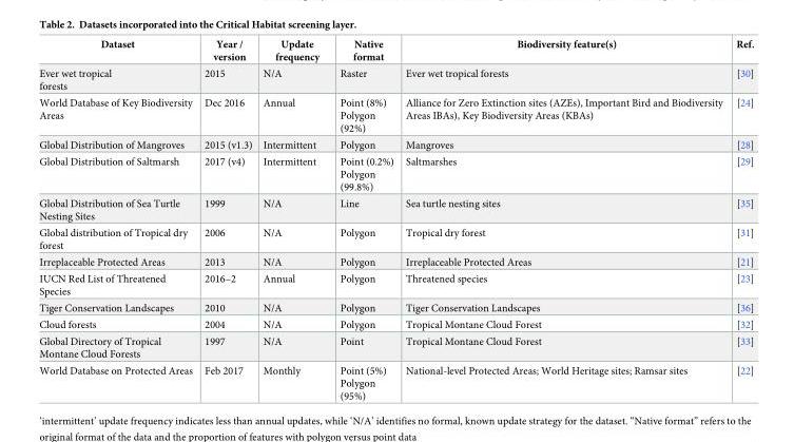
<table><thead><tr><td>Dataset</td><td>Year / version</td><td>Update frequency</td><td>Native format</td><td>Biodiversity feature(s)</td><td>Ref.</td></tr></thead><tbody><tr><td>Ever wet tropical forests</td><td>2015</td><td>N/A</td><td>Raster</td><td>Ever wet tropical forests</td><td>[30]</td></tr><tr><td>World Database of Key Biodiversity Areas</td><td>Dec 2016</td><td>Annual</td><td>Point (8%) Polygon (92%)</td><td>Alliance for Zero Extinction sites (AZEs), Important Bird and Biodiversity Areas IBAs), Key Biodiversity Areas (KBAs)</td><td>[24]</td></tr><tr><td>Global Distribution of Mangroves</td><td>2015 (v1.3)</td><td>Intermittent</td><td>Polygon</td><td>Mangroves</td><td>[28]</td></tr><tr><td>Global Distribution of Saltmarsh</td><td>2017 (v4)</td><td>Intermittent</td><td>Point (0.2%) Polygon (99.8%)</td><td>Saltmarshes</td><td>[29]</td></tr><tr><td>Global Distribution of Sea Turtle Nesting Sites</td><td>1999</td><td>N/A</td><td>Line</td><td>Sea turtle nesting sites</td><td>[35]</td></tr><tr><td>Global distribution of Tropical dry forest</td><td>2006</td><td>N/A</td><td>Polygon</td><td>Tropical dry forest</td><td>[31]</td></tr><tr><td>Irreplaceable Protected Areas</td><td>2013</td><td>N/A</td><td>Polygon</td><td>Irreplaceable Protected Areas</td><td>[21]</td></tr><tr><td>IUCN Red List of Threatened Species</td><td>2016–2</td><td>Annual</td><td>Polygon</td><td>Threatened species</td><td>[23]</td></tr><tr><td>Tiger Conservation Landscapes</td><td>2010</td><td>N/A</td><td>Polygon</td><td>Tiger Conservation Landscapes</td><td>[36]</td></tr><tr><td>Cloud forests</td><td>2004</td><td>N/A</td><td>Polygon</td><td>Tropical Montane Cloud Forest</td><td>[32]</td></tr><tr><td>Global Directory of Tropical Montane Cloud Forests</td><td>1997</td><td>N/A</td><td>Point</td><td>Tropical Montane Cloud Forest</td><td>[33]</td></tr><tr><td>World Database on Protected Areas</td><td>Feb 2017</td><td>Monthly</td><td>Point (5%) Polygon (95%)</td><td>National-level Protected Areas; World Heritage sites; Ramsar sites</td><td>[22]</td></tr></tbody></table>